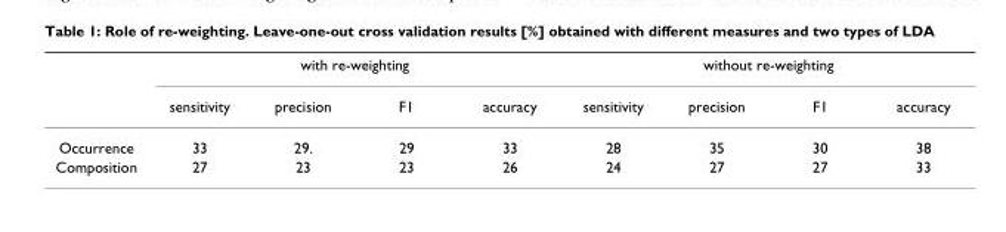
<table><thead><tr><td rowspan="2"></td><td colspan="4">with re-weighting</td><td colspan="4">without re-weighting</td></tr><tr><td>sensitivity</td><td>precision</td><td>F1</td><td>accuracy</td><td>sensitivity</td><td>precision</td><td>F1</td><td>accuracy</td></tr></thead><tbody><tr><td>Occurrence</td><td>33</td><td>29.</td><td>29</td><td>33</td><td>28</td><td>35</td><td>30</td><td>38</td></tr><tr><td>Composition</td><td>27</td><td>23</td><td>23</td><td>26</td><td>24</td><td>27</td><td>27</td><td>33</td></tr></tbody></table>